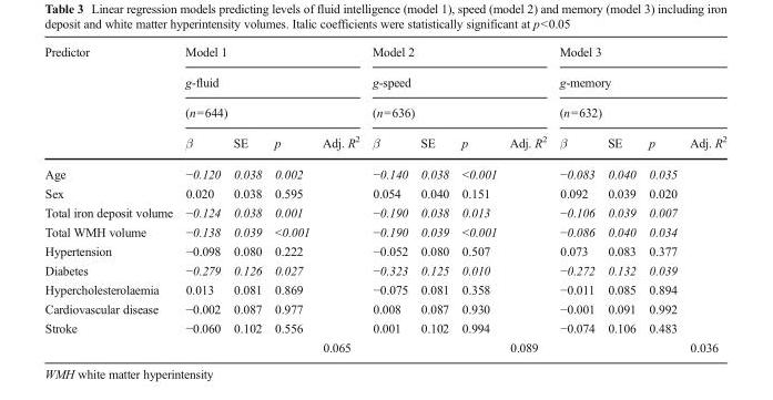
<table><thead><tr><td rowspan="4">Predictor</td><td rowspan="3" colspan="4">Model 1 g-fluid (n=644)</td><td rowspan="3" colspan="4">Model 2 g-speed (n=636)</td><td rowspan="3" colspan="4">Model 3 g-memory (n=632)</td></tr><tr></tr><tr></tr><tr><td>β</td><td>SE</td><td>p</td><td>Adj. R<sup>2</sup></td><td>β</td><td>SE</td><td>p</td><td>Adj. R<sup>2</sup></td><td>β</td><td>SE</td><td>p</td><td>Adj. R<sup>2</sup></td></tr></thead><tbody><tr><td>Age</td><td>−0.120</td><td>0.038</td><td>0.002</td><td></td><td>−0.140</td><td>0.038</td><td>&lt;0.001</td><td></td><td>−0.083</td><td>0.040</td><td>0.035</td><td></td></tr><tr><td>Sex</td><td>0.020</td><td>0.038</td><td>0.595</td><td></td><td>0.054</td><td>0.040</td><td>0.151</td><td></td><td>0.092</td><td>0.039</td><td>0.020</td><td></td></tr><tr><td>Total iron deposit volume</td><td>−0.124</td><td>0.038</td><td>0.001</td><td></td><td>−0.190</td><td>0.038</td><td>0.013</td><td></td><td>−0.106</td><td>0.039</td><td>0.007</td><td></td></tr><tr><td>Total WMH volume</td><td>−0.138</td><td>0.039</td><td>&lt;0.001</td><td></td><td>−0.190</td><td>0.039</td><td>&lt;0.001</td><td></td><td>−0.086</td><td>0.040</td><td>0.034</td><td></td></tr><tr><td>Hypertension</td><td>−0.098</td><td>0.080</td><td>0.222</td><td></td><td>−0.052</td><td>0.080</td><td>0.507</td><td></td><td>0.073</td><td>0.083</td><td>0.377</td><td></td></tr><tr><td>Diabetes</td><td>−0.279</td><td>0.126</td><td>0.027</td><td></td><td>−0.323</td><td>0.125</td><td>0.010</td><td></td><td>−0.272</td><td>0.132</td><td>0.039</td><td></td></tr><tr><td>Hypercholesterolaemia</td><td>0.013</td><td>0.081</td><td>0.869</td><td></td><td>−0.075</td><td>0.081</td><td>0.358</td><td></td><td>−0.011</td><td>0.085</td><td>0.894</td><td></td></tr><tr><td>Cardiovascular disease</td><td>−0.002</td><td>0.087</td><td>0.977</td><td></td><td>0.008</td><td>0.087</td><td>0.930</td><td></td><td>−0.001</td><td>0.091</td><td>0.992</td><td></td></tr><tr><td rowspan="2">Stroke</td><td>−0.060</td><td>0.102</td><td>0.556</td><td></td><td>0.001</td><td>0.102</td><td>0.994</td><td></td><td>−0.074</td><td>0.106</td><td>0.483</td><td></td></tr><tr><td></td><td></td><td></td><td>0.065</td><td></td><td></td><td></td><td>0.089</td><td></td><td></td><td></td><td>0.036</td></tr></tbody></table>